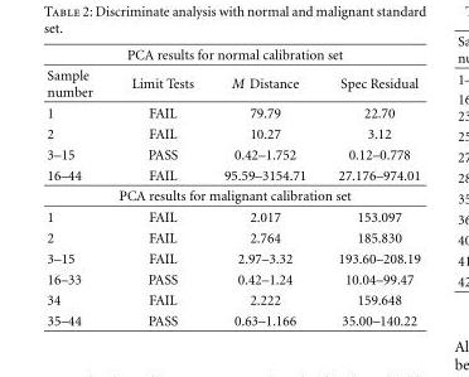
<table><tbody><tr><td colspan="4">PCA results for normal calibration set</td></tr><tr><td>Sample number</td><td>Limit Tests</td><td>M Distance</td><td>Spec Residual</td></tr><tr><td>1</td><td>FAIL</td><td>79.79</td><td>22.70</td></tr><tr><td>2</td><td>FAIL</td><td>10.27</td><td>3.12</td></tr><tr><td>3–15</td><td>PASS</td><td>0.42–1.752</td><td>0.12–0.778</td></tr><tr><td>16–44</td><td>FAIL</td><td>95.59–3154.71</td><td>27.176–974.01</td></tr><tr><td colspan="4">PCA results for malignant calibration set</td></tr><tr><td>1</td><td>FAIL</td><td>2.017</td><td>153.097</td></tr><tr><td>2</td><td>FAIL</td><td>2.764</td><td>185.830</td></tr><tr><td>3–15</td><td>FAIL</td><td>2.97–3.32</td><td>193.60–208.19</td></tr><tr><td>16–33</td><td>PASS</td><td>0.42–1.24</td><td>10.04–99.47</td></tr><tr><td>34</td><td>FAIL</td><td>2.222</td><td>159.648</td></tr><tr><td>35–44</td><td>PASS</td><td>0.63–1.166</td><td>35.00–140.22</td></tr></tbody></table>